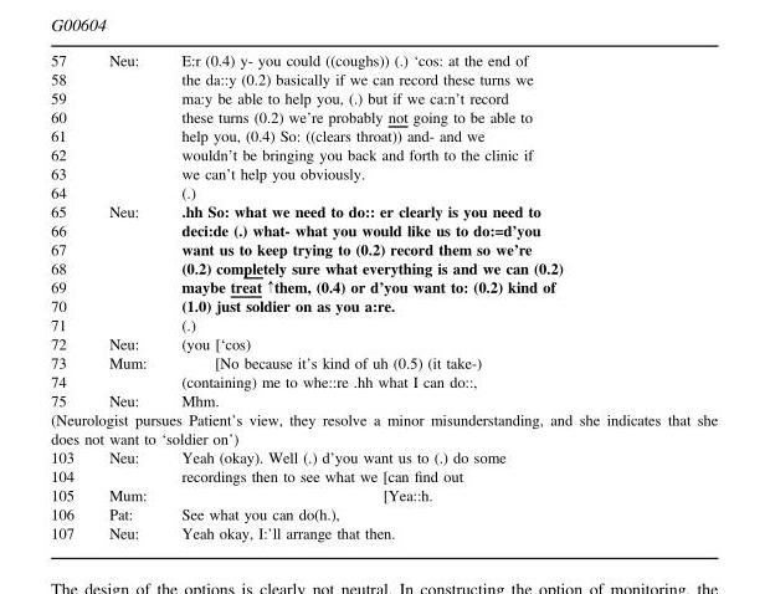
<table><tbody><tr><td>57</td><td>Neu:</td><td>E:r (0.4) y- you could ((coughs)) (.) ‘cos: at the end of</td></tr><tr><td>58</td><td></td><td>the da::y (0.2) basically if we can record these turns we</td></tr><tr><td>59</td><td></td><td>ma:y be able to help you, (.) but if we ca:n’t record</td></tr><tr><td>60</td><td></td><td>these turns (0.2) we’re probably not going to be able to</td></tr><tr><td>61</td><td></td><td>help you, (0.4) So: ((clears throat)) and- and we</td></tr><tr><td>62</td><td></td><td>wouldn’t be bringing you back and forth to the clinic if</td></tr><tr><td>63</td><td></td><td>we can’t help you obviously.</td></tr><tr><td>64</td><td></td><td>(.)</td></tr><tr><td>65</td><td>Neu:</td><td>.hh So: what we need to do:: er clearly is you need to</td></tr><tr><td>66</td><td></td><td>deci:de (.) what- what you would like us to do:=d’you</td></tr><tr><td>67</td><td></td><td>want us to keep trying to (0.2) record them so we’re</td></tr><tr><td>68</td><td></td><td>(0.2) completely sure what everything is and we can (0.2)</td></tr><tr><td>69</td><td></td><td>maybe treat ↑them, (0.4) or d’you want to: (0.2) kind of</td></tr><tr><td>70</td><td></td><td>(1.0) just soldier on as you a:re.</td></tr><tr><td>71</td><td></td><td>(.)</td></tr><tr><td>72</td><td>Neu:</td><td>(you [‘cos)</td></tr><tr><td>73</td><td>Mum:</td><td>[No because it’s kind of uh (0.5) (it take-)</td></tr><tr><td>74</td><td></td><td>(containing) me to whe::re .hh what I can do::,</td></tr><tr><td>75</td><td>Neu:</td><td>Mhm.</td></tr><tr><td colspan="3">(Neurologist pursues Patient’s view, they resolve a minor misunderstanding, and she indicates that she does not want to ‘soldier on’)</td></tr><tr><td>103</td><td>Neu:</td><td>Yeah (okay). Well (.) d’you want us to (.) do some</td></tr><tr><td>104</td><td></td><td>recordings then to see what we [can find out</td></tr><tr><td>105</td><td>Mum:</td><td>[Yea::h.</td></tr><tr><td>106</td><td>Pat:</td><td>See what you can do(h.),</td></tr><tr><td>107</td><td>Neu:</td><td>Yeah okay, I:’ll arrange that then.</td></tr></tbody></table>